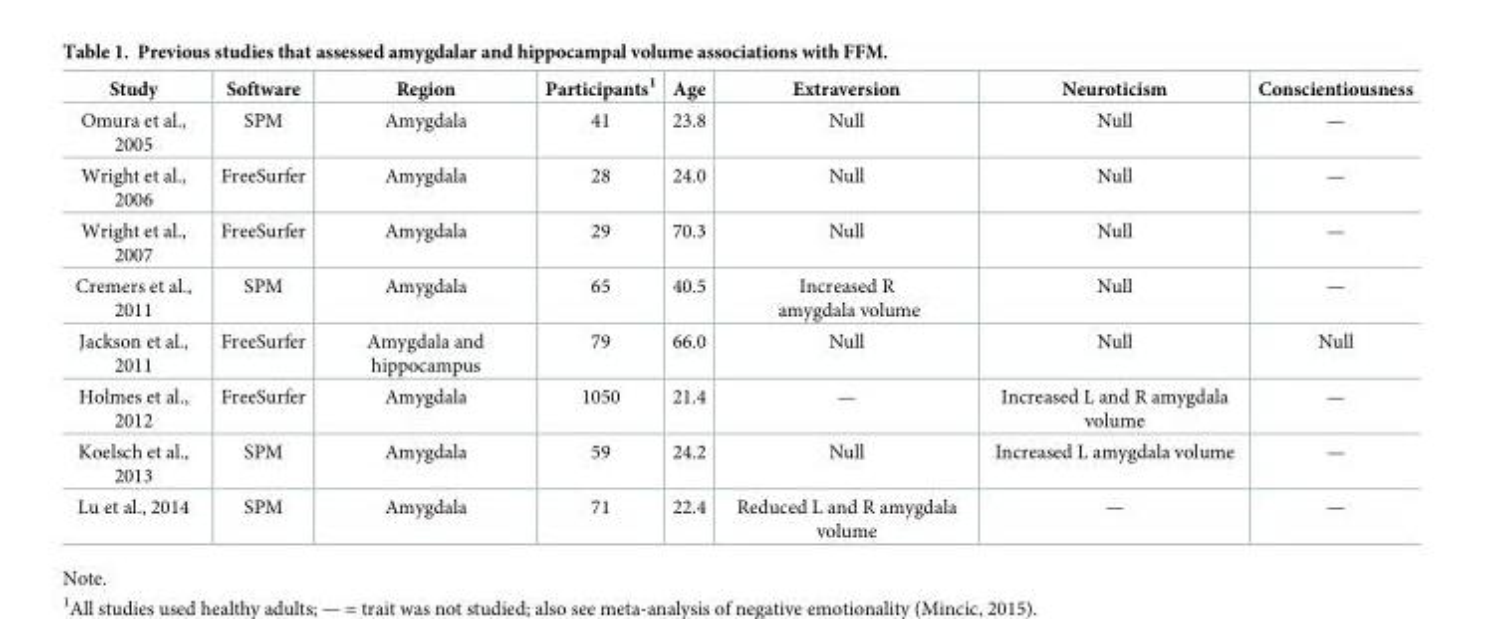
<table><thead><tr><td>Study</td><td>Software</td><td>Region</td><td>Participants<sup>1</sup></td><td>Age</td><td>Extraversion</td><td>Neuroticism</td><td>Conscientiousness</td></tr></thead><tbody><tr><td>Omura et al., 2005</td><td>SPM</td><td>Amygdala</td><td>41</td><td>23.8</td><td>Null</td><td>Null</td><td>—</td></tr><tr><td>Wright et al., 2006</td><td>FreeSurfer</td><td>Amygdala</td><td>28</td><td>24.0</td><td>Null</td><td>Null</td><td>—</td></tr><tr><td>Wright et al., 2007</td><td>FreeSurfer</td><td>Amygdala</td><td>29</td><td>70.3</td><td>Null</td><td>Null</td><td>—</td></tr><tr><td>Cremers et al., 2011</td><td>SPM</td><td>Amygdala</td><td>65</td><td>40.5</td><td>Increased R amygdala volume</td><td>Null</td><td>—</td></tr><tr><td>Jackson et al., 2011</td><td>FreeSurfer</td><td>Amygdala and hippocampus</td><td>79</td><td>66.0</td><td>Null</td><td>Null</td><td>Null</td></tr><tr><td>Holmes et al., 2012</td><td>FreeSurfer</td><td>Amygdala</td><td>1050</td><td>21.4</td><td>—</td><td>Increased L and R amygdala volume</td><td>—</td></tr><tr><td>Koelsch et al., 2013</td><td>SPM</td><td>Amygdala</td><td>59</td><td>24.2</td><td>Null</td><td>Increased L amygdala volume</td><td>—</td></tr><tr><td>Lu et al., 2014</td><td>SPM</td><td>Amygdala</td><td>71</td><td>22.4</td><td>Reduced L and R amygdala volume</td><td>—</td><td>—</td></tr></tbody></table>